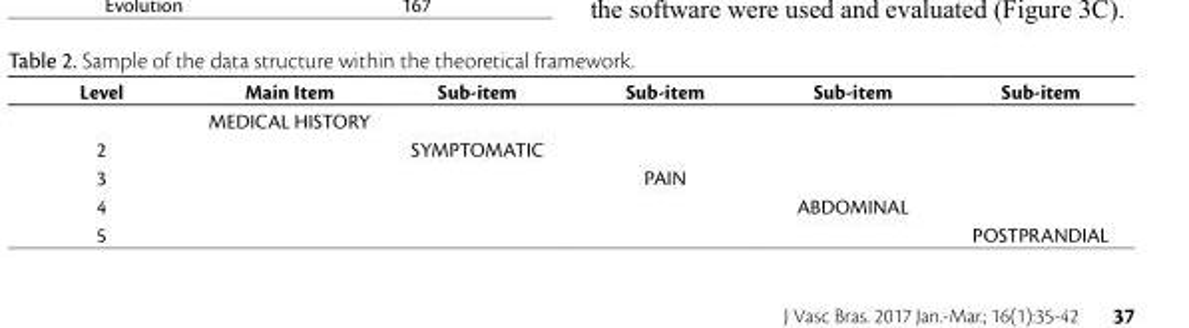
<table><thead><tr><td>Level</td><td>Main Item</td><td>Sub-item</td><td>Sub-item</td><td>Sub-item</td><td>Sub-item</td></tr></thead><tbody><tr><td></td><td colspan="5">MEDICAL HISTORY</td></tr><tr><td>2</td><td></td><td colspan="4">SYMPTOMATIC</td></tr><tr><td>3</td><td></td><td></td><td colspan="3">PAIN</td></tr><tr><td>4</td><td></td><td></td><td></td><td colspan="2">ABDOMINAL</td></tr><tr><td>5</td><td></td><td></td><td></td><td></td><td>POSTPRANDIAL</td></tr></tbody></table>